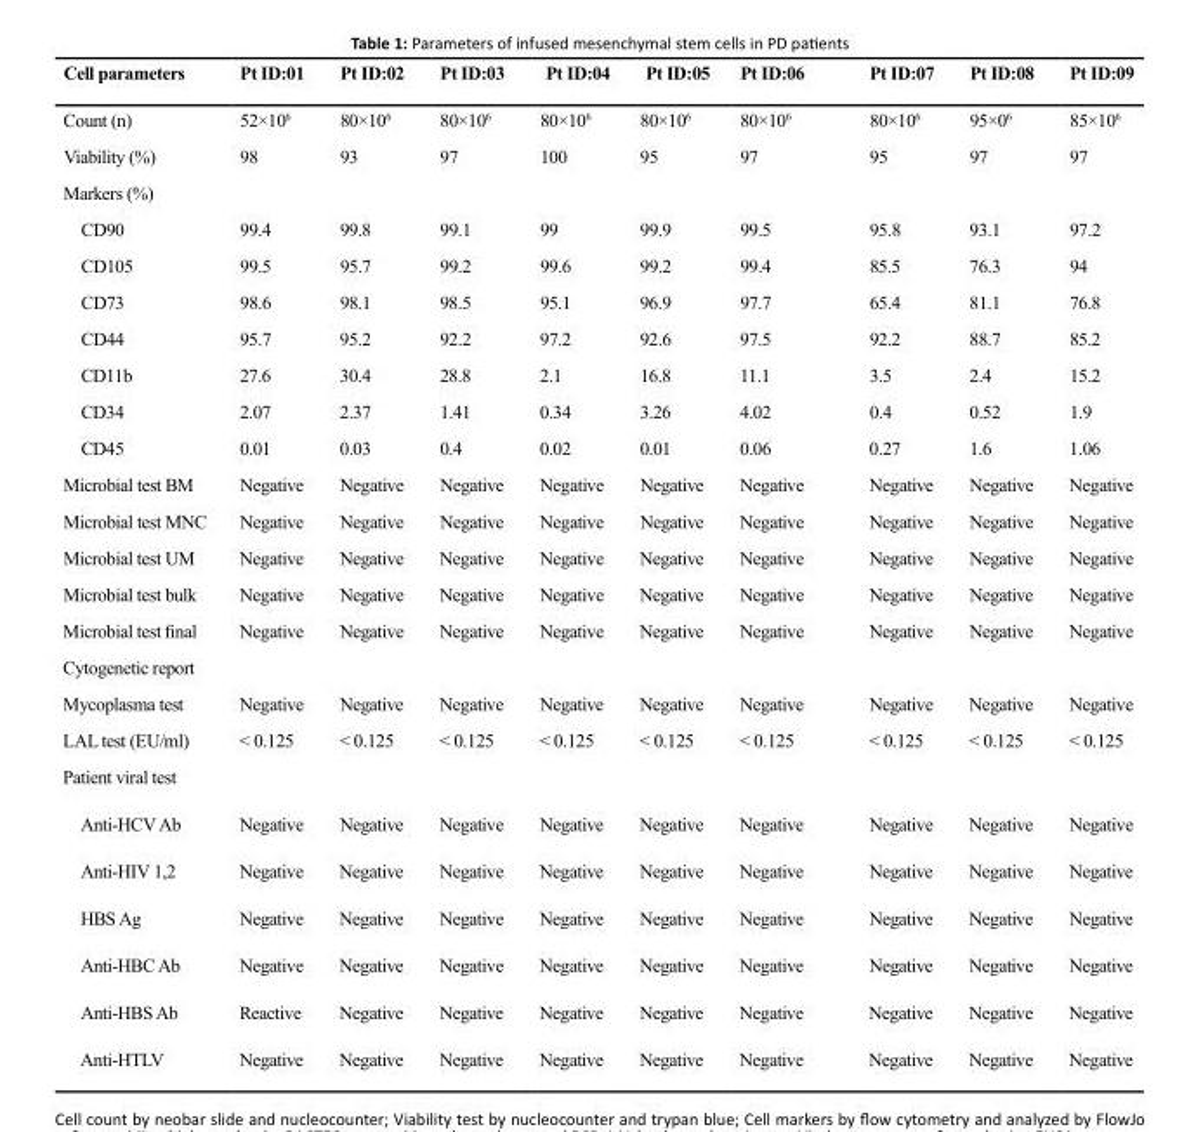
<table><thead><tr><td>Cell parameters</td><td>Pt ID:01</td><td>Pt ID:02</td><td>Pt ID:03</td><td>Pt ID:04</td><td>Pt ID:05</td><td>Pt ID:06</td><td>Pt ID:07</td><td>Pt ID:08</td><td>Pt ID:09</td></tr></thead><tbody><tr><td>Count (n)</td><td>52×10<sup>6</sup></td><td>80×10<sup>6</sup></td><td>80×10<sup>6</sup></td><td>80×10<sup>6</sup></td><td>80×10<sup>6</sup></td><td>80×10<sup>6</sup></td><td>80×10<sup>6</sup></td><td>95×0<sup>6</sup></td><td>85×10<sup>6</sup></td></tr><tr><td>Viability (%)</td><td>98</td><td>93</td><td>97</td><td>100</td><td>95</td><td>97</td><td>95</td><td>97</td><td>97</td></tr><tr><td colspan="10">Markers (%)</td></tr><tr><td>CD90</td><td>99.4</td><td>99.8</td><td>99.1</td><td>99</td><td>99.9</td><td>99.5</td><td>95.8</td><td>93.1</td><td>97.2</td></tr><tr><td>CD105</td><td>99.5</td><td>95.7</td><td>99.2</td><td>99.6</td><td>99.2</td><td>99.4</td><td>85.5</td><td>76.3</td><td>94</td></tr><tr><td>CD73</td><td>98.6</td><td>98.1</td><td>98.5</td><td>95.1</td><td>96.9</td><td>97.7</td><td>65.4</td><td>81.1</td><td>76.8</td></tr><tr><td>CD44</td><td>95.7</td><td>95.2</td><td>92.2</td><td>97.2</td><td>92.6</td><td>97.5</td><td>92.2</td><td>88.7</td><td>85.2</td></tr><tr><td>CD11b</td><td>27.6</td><td>30.4</td><td>28.8</td><td>2.1</td><td>16.8</td><td>11.1</td><td>3.5</td><td>2.4</td><td>15.2</td></tr><tr><td>CD34</td><td>2.07</td><td>2.37</td><td>1.41</td><td>0.34</td><td>3.26</td><td>4.02</td><td>0.4</td><td>0.52</td><td>1.9</td></tr><tr><td>CD45</td><td>0.01</td><td>0.03</td><td>0.4</td><td>0.02</td><td>0.01</td><td>0.06</td><td>0.27</td><td>1.6</td><td>1.06</td></tr><tr><td>Microbial test BM</td><td>Negative</td><td>Negative</td><td>Negative</td><td>Negative</td><td>Negative</td><td>Negative</td><td>Negative</td><td>Negative</td><td>Negative</td></tr><tr><td>Microbial test MNC</td><td>Negative</td><td>Negative</td><td>Negative</td><td>Negative</td><td>Negative</td><td>Negative</td><td>Negative</td><td>Negative</td><td>Negative</td></tr><tr><td>Microbial test UM</td><td>Negative</td><td>Negative</td><td>Negative</td><td>Negative</td><td>Negative</td><td>Negative</td><td>Negative</td><td>Negative</td><td>Negative</td></tr><tr><td>Microbial test bulk</td><td>Negative</td><td>Negative</td><td>Negative</td><td>Negative</td><td>Negative</td><td>Negative</td><td>Negative</td><td>Negative</td><td>Negative</td></tr><tr><td>Microbial test final</td><td>Negative</td><td>Negative</td><td>Negative</td><td>Negative</td><td>Negative</td><td>Negative</td><td>Negative</td><td>Negative</td><td>Negative</td></tr><tr><td colspan="10">Cytogenetic report</td></tr><tr><td>Mycoplasma test</td><td>Negative</td><td>Negative</td><td>Negative</td><td>Negative</td><td>Negative</td><td>Negative</td><td>Negative</td><td>Negative</td><td>Negative</td></tr><tr><td>LAL test (EU/ml)</td><td>&lt; 0.125</td><td>&lt; 0.125</td><td>&lt; 0.125</td><td>&lt; 0.125</td><td>&lt; 0.125</td><td>&lt; 0.125</td><td>&lt; 0.125</td><td>&lt; 0.125</td><td>&lt; 0.125</td></tr><tr><td colspan="10">Patient viral test</td></tr><tr><td>Anti-HCV Ab</td><td>Negative</td><td>Negative</td><td>Negative</td><td>Negative</td><td>Negative</td><td>Negative</td><td>Negative</td><td>Negative</td><td>Negative</td></tr><tr><td>Anti-HIV 1,2</td><td>Negative</td><td>Negative</td><td>Negative</td><td>Negative</td><td>Negative</td><td>Negative</td><td>Negative</td><td>Negative</td><td>Negative</td></tr><tr><td>HBS Ag</td><td>Negative</td><td>Negative</td><td>Negative</td><td>Negative</td><td>Negative</td><td>Negative</td><td>Negative</td><td>Negative</td><td>Negative</td></tr><tr><td>Anti-HBC Ab</td><td>Negative</td><td>Negative</td><td>Negative</td><td>Negative</td><td>Negative</td><td>Negative</td><td>Negative</td><td>Negative</td><td>Negative</td></tr><tr><td>Anti-HBS Ab</td><td>Reactive</td><td>Negative</td><td>Negative</td><td>Negative</td><td>Negative</td><td>Negative</td><td>Negative</td><td>Negative</td><td>Negative</td></tr><tr><td>Anti-HTLV</td><td>Negative</td><td>Negative</td><td>Negative</td><td>Negative</td><td>Negative</td><td>Negative</td><td>Negative</td><td>Negative</td><td>Negative</td></tr></tbody></table>